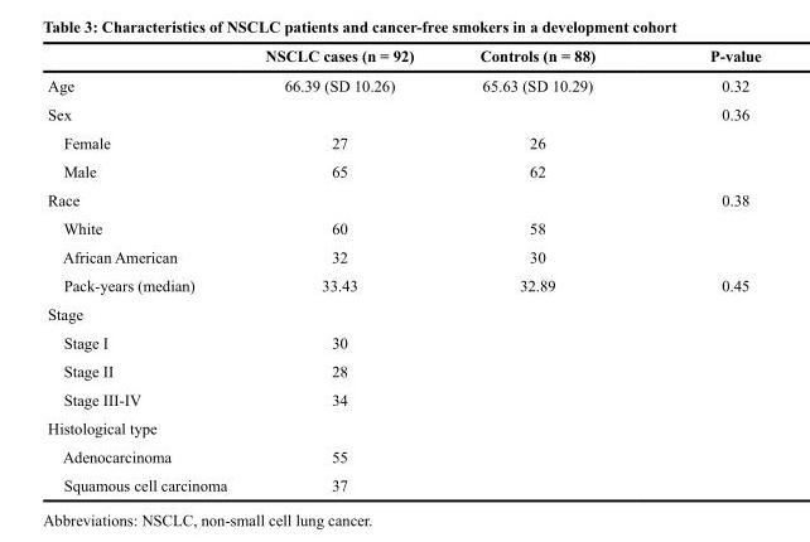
<table><thead><tr><td></td><td>NSCLC cases (n = 92)</td><td>Controls (n = 88)</td><td>P-value</td></tr></thead><tbody><tr><td>Age</td><td>66.39 (SD 10.26)</td><td>65.63 (SD 10.29)</td><td>0.32</td></tr><tr><td>Sex</td><td></td><td></td><td>0.36</td></tr><tr><td>Female</td><td>27</td><td>26</td><td></td></tr><tr><td>Male</td><td>65</td><td>62</td><td></td></tr><tr><td>Race</td><td></td><td></td><td>0.38</td></tr><tr><td>White</td><td>60</td><td>58</td><td></td></tr><tr><td>African American</td><td>32</td><td>30</td><td></td></tr><tr><td>Pack-years (median)</td><td>33.43</td><td>32.89</td><td>0.45</td></tr><tr><td colspan="4">Stage</td></tr><tr><td>Stage I</td><td>30</td><td></td><td></td></tr><tr><td>Stage II</td><td>28</td><td></td><td></td></tr><tr><td>Stage III-IV</td><td>34</td><td></td><td></td></tr><tr><td colspan="4">Histological type</td></tr><tr><td>Adenocarcinoma</td><td>55</td><td></td><td></td></tr><tr><td>Squamous cell carcinoma</td><td>37</td><td></td><td></td></tr></tbody></table>